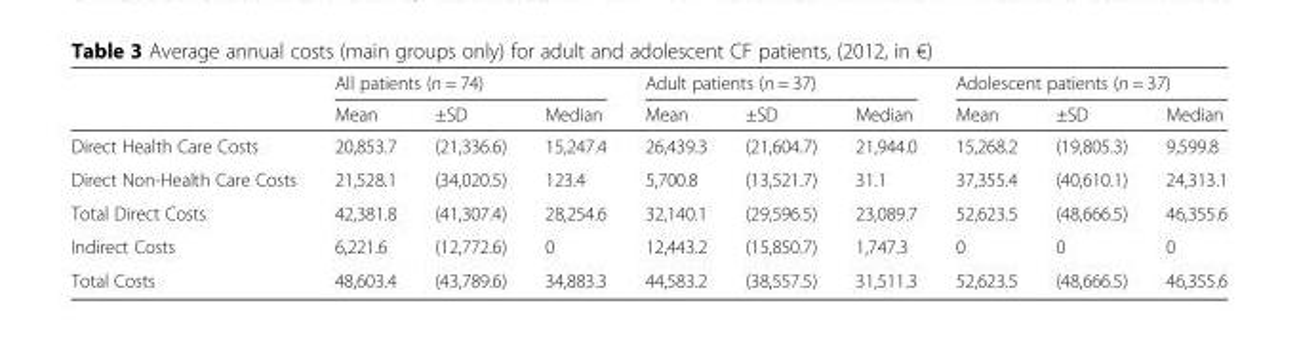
<table><thead><tr><td rowspan="2"></td><td colspan="3">All patients (n = 74)</td><td colspan="3">Adult patients (n = 37)</td><td colspan="3">Adolescent patients (n = 37)</td></tr><tr><td>Mean</td><td>±SD</td><td>Median</td><td>Mean</td><td>±SD</td><td>Median</td><td>Mean</td><td>±SD</td><td>Median</td></tr></thead><tbody><tr><td>Direct Health Care Costs</td><td>20,853.7</td><td>(21,336.6)</td><td>15,247.4</td><td>26,439.3</td><td>(21,604.7)</td><td>21,944.0</td><td>15,268.2</td><td>(19,805.3)</td><td>9,599.8</td></tr><tr><td>Direct Non-Health Care Costs</td><td>21,528.1</td><td>(34,020.5)</td><td>123.4</td><td>5,700.8</td><td>(13,521.7)</td><td>31.1</td><td>37,355.4</td><td>(40,610.1)</td><td>24,313.1</td></tr><tr><td>Total Direct Costs</td><td>42,381.8</td><td>(41,307.4)</td><td>28,254.6</td><td>32,140.1</td><td>(29,596.5)</td><td>23,089.7</td><td>52,623.5</td><td>(48,666.5)</td><td>46,355.6</td></tr><tr><td>Indirect Costs</td><td>6,221.6</td><td>(12,772.6)</td><td>0</td><td>12,443.2</td><td>(15,850.7)</td><td>1,747.3</td><td>0</td><td>0</td><td>0</td></tr><tr><td>Total Costs</td><td>48,603.4</td><td>(43,789.6)</td><td>34,883.3</td><td>44,583.2</td><td>(38,557.5)</td><td>31,511.3</td><td>52,623.5</td><td>(48,666.5)</td><td>46,355.6</td></tr></tbody></table>